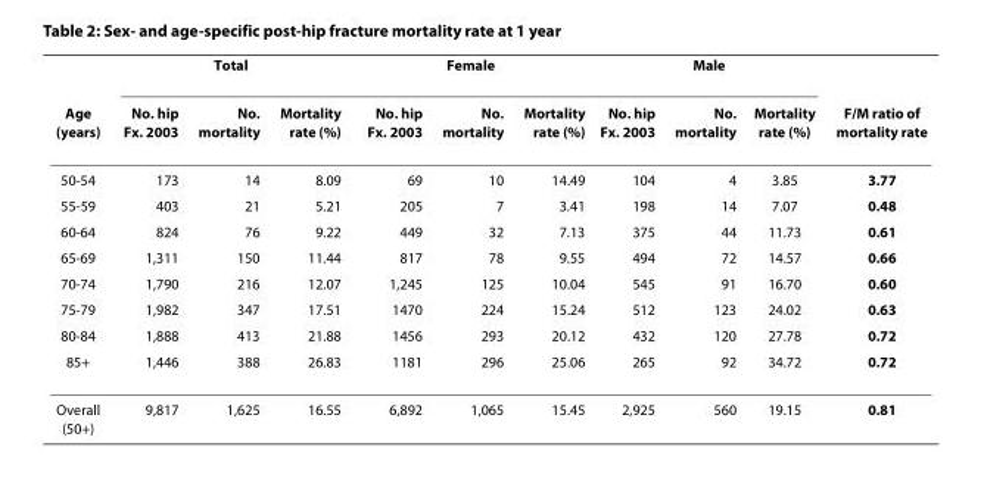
<table><thead><tr><td rowspan="2">Age (years)</td><td colspan="3">Total</td><td colspan="3">Female</td><td colspan="3">Male</td><td rowspan="2">F/M ratio of mortality rate</td></tr><tr><td>No. hip Fx. 2003</td><td>No. mortality</td><td>Mortality rate (%)</td><td>No. hip Fx. 2003</td><td>No. mortality</td><td>Mortality rate (%)</td><td>No. hip Fx. 2003</td><td>No. mortality</td><td>Mortality rate (%)</td></tr></thead><tbody><tr><td>50-54</td><td>173</td><td>14</td><td>8.09</td><td>69</td><td>10</td><td>14.49</td><td>104</td><td>4</td><td>3.85</td><td>3.77</td></tr><tr><td>55-59</td><td>403</td><td>21</td><td>5.21</td><td>205</td><td>7</td><td>3.41</td><td>198</td><td>14</td><td>7.07</td><td>0.48</td></tr><tr><td>60-64</td><td>824</td><td>76</td><td>9.22</td><td>449</td><td>32</td><td>7.13</td><td>375</td><td>44</td><td>11.73</td><td>0.61</td></tr><tr><td>65-69</td><td>1,311</td><td>150</td><td>11.44</td><td>817</td><td>78</td><td>9.55</td><td>494</td><td>72</td><td>14.57</td><td>0.66</td></tr><tr><td>70-74</td><td>1,790</td><td>216</td><td>12.07</td><td>1,245</td><td>125</td><td>10.04</td><td>545</td><td>91</td><td>16.70</td><td>0.60</td></tr><tr><td>75-79</td><td>1,982</td><td>347</td><td>17.51</td><td>1470</td><td>224</td><td>15.24</td><td>512</td><td>123</td><td>24.02</td><td>0.63</td></tr><tr><td>80-84</td><td>1,888</td><td>413</td><td>21.88</td><td>1456</td><td>293</td><td>20.12</td><td>432</td><td>120</td><td>27.78</td><td>0.72</td></tr><tr><td>85+</td><td>1,446</td><td>388</td><td>26.83</td><td>1181</td><td>296</td><td>25.06</td><td>265</td><td>92</td><td>34.72</td><td>0.72</td></tr><tr><td>Overall (50+)</td><td>9,817</td><td>1,625</td><td>16.55</td><td>6,892</td><td>1,065</td><td>15.45</td><td>2,925</td><td>560</td><td>19.15</td><td>0.81</td></tr></tbody></table>